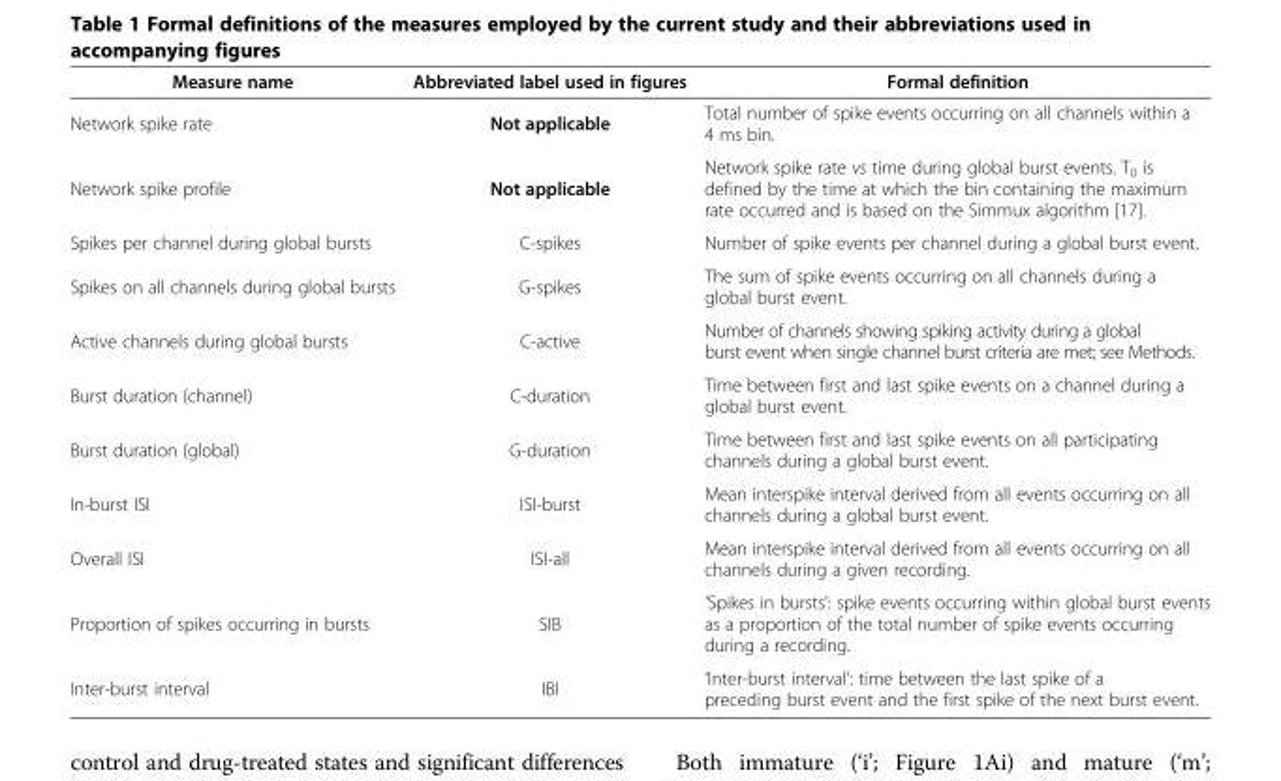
<table><thead><tr><td>Measure name</td><td>Abbreviated label used in figures</td><td>Formal definition</td></tr></thead><tbody><tr><td>Network spike rate</td><td>Not applicable</td><td>Total number of spike events occurring on all channels within a 4 ms bin.</td></tr><tr><td>Network spike profile</td><td>Not applicable</td><td>Network spike rate vs time during global burst events. T<sub>0</sub> is defined by the time at which the bin containing the maximum rate occurred and is based on the Simmux algorithm [17].</td></tr><tr><td>Spikes per channel during global bursts</td><td>C-spikes</td><td>Number of spike events per channel during a global burst event.</td></tr><tr><td>Spikes on all channels during global bursts</td><td>G-spikes</td><td>The sum of spike events occurring on all channels during a global burst event.</td></tr><tr><td>Active channels during global bursts</td><td>C-active</td><td>Number of channels showing spiking activity during a global burst event when single channel burst criteria are met; see Methods.</td></tr><tr><td>Burst duration (channel)</td><td>C-duration</td><td>Time between first and last spike events on a channel during a global burst event.</td></tr><tr><td>Burst duration (global)</td><td>G-duration</td><td>Time between first and last spike events on all participating channels during a global burst event.</td></tr><tr><td>In-burst ISI</td><td>ISI-burst</td><td>Mean interspike interval derived from all events occurring on all channels during a global burst event.</td></tr><tr><td>Overall ISI</td><td>ISI-all</td><td>Mean interspike interval derived from all events occurring on all channels during a given recording.</td></tr><tr><td>Proportion of spikes occurring in bursts</td><td>SIB</td><td>‘Spikes in bursts’: spike events occurring within global burst events as a proportion of the total number of spike events occurring during a recording.</td></tr><tr><td>Inter-burst interval</td><td>IBI</td><td>‘Inter-burst interval’: time between the last spike of a preceding burst event and the first spike of the next burst event.</td></tr></tbody></table>